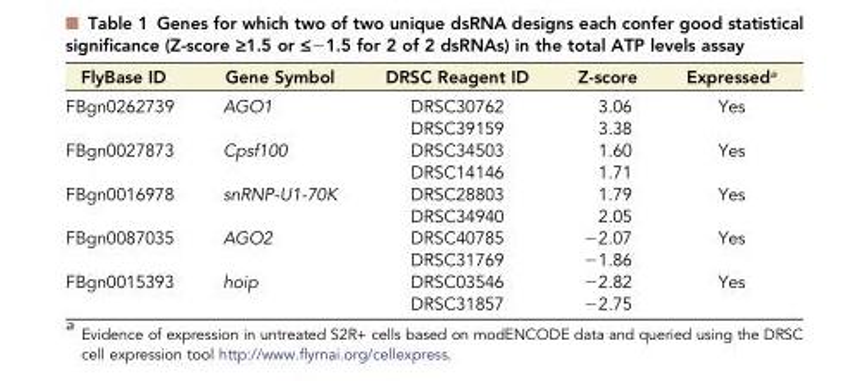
<table><thead><tr><td>FlyBase ID</td><td>Gene Symbol</td><td>DRSC Reagent ID</td><td>Z-score</td><td>Expressed<sup>a</sup></td></tr></thead><tbody><tr><td rowspan="2">FBgn0262739</td><td>AGO1</td><td>DRSC30762</td><td>3.06</td><td>Yes</td></tr><tr><td></td><td>DRSC39159</td><td>3.38</td><td></td></tr><tr><td rowspan="2">FBgn0027873</td><td>Cpsf100</td><td>DRSC34503</td><td>1.60</td><td>Yes</td></tr><tr><td></td><td>DRSC14146</td><td>1.71</td><td></td></tr><tr><td rowspan="2">FBgn0016978</td><td>snRNP-U1-70K</td><td>DRSC28803</td><td>1.79</td><td>Yes</td></tr><tr><td></td><td>DRSC34940</td><td>2.05</td><td></td></tr><tr><td rowspan="2">FBgn0087035</td><td>AGO2</td><td>DRSC40785</td><td>−2.07</td><td>Yes</td></tr><tr><td></td><td>DRSC31769</td><td>−1.86</td><td></td></tr><tr><td rowspan="2">FBgn0015393</td><td>hoip</td><td>DRSC03546</td><td>−2.82</td><td>Yes</td></tr><tr><td></td><td>DRSC31857</td><td>−2.75</td><td></td></tr></tbody></table>